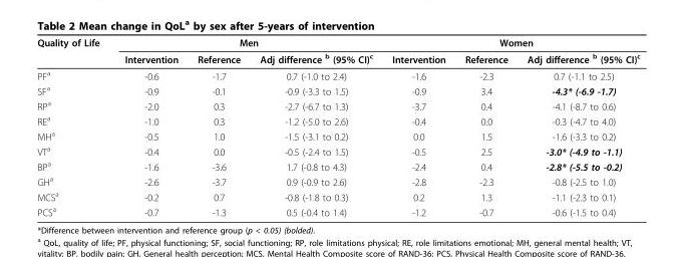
<table><thead><tr><td rowspan="2">Quality of Life</td><td colspan="3">Men</td><td colspan="3">Women</td></tr><tr><td>Intervention</td><td>Reference</td><td>Adj difference <sup>b</sup> (95% CI)<sup>c</sup></td><td>Intervention</td><td>Reference</td><td>Adj difference <sup>b</sup> (95% CI)<sup>c</sup></td></tr></thead><tbody><tr><td>PF<sup>a</sup></td><td>-0.6</td><td>-1.7</td><td>0.7 (-1.0 to 2.4)</td><td>-1.6</td><td>-2.3</td><td>0.7 (-1.1 to 2.5)</td></tr><tr><td>SF<sup>a</sup></td><td>-0.9</td><td>-0.1</td><td>-0.9 (-3.3 to 1.5)</td><td>-0.9</td><td>3.4</td><td>-4.3* (-6.9 -1.7)</td></tr><tr><td>RP<sup>a</sup></td><td>-2.0</td><td>0.3</td><td>-2.7 (-6.7 to 1.3)</td><td>-3.7</td><td>0.4</td><td>-4.1 (-8.7 to 0.6)</td></tr><tr><td>RE<sup>a</sup></td><td>-1.0</td><td>0.3</td><td>-1.2 (-5.0 to 2.6)</td><td>-0.4</td><td>0.0</td><td>-0.3 (-4.7 to 4.0)</td></tr><tr><td>MH<sup>a</sup></td><td>-0.5</td><td>1.0</td><td>-1.5 (-3.1 to 0.2)</td><td>0.0</td><td>1.5</td><td>-1.6 (-3.3 to 0.2)</td></tr><tr><td>VT<sup>a</sup></td><td>-0.4</td><td>0.0</td><td>-0.5 (-2.4 to 1.5)</td><td>-0.5</td><td>2.5</td><td>-3.0* (-4.9 to -1.1)</td></tr><tr><td>BP<sup>a</sup></td><td>-1.6</td><td>-3.6</td><td>1.7 (-0.8 to 4.3)</td><td>-2.4</td><td>0.4</td><td>-2.8* (-5.5 to -0.2)</td></tr><tr><td>GH<sup>a</sup></td><td>-2.6</td><td>-3.7</td><td>0.9 (-0.9 to 2.6)</td><td>-2.8</td><td>-2.3</td><td>-0.8 (-2.5 to 1.0)</td></tr><tr><td>MCS<sup>a</sup></td><td>-0.2</td><td>0.7</td><td>-0.8 (-1.8 to 0.3)</td><td>0.2</td><td>1.3</td><td>-1.1 (-2.3 to 0.1)</td></tr><tr><td>PCS<sup>a</sup></td><td>-0.7</td><td>-1.3</td><td>0.5 (-0.4 to 1.4)</td><td>-1.2</td><td>-0.7</td><td>-0.6 (-1.5 to 0.4)</td></tr></tbody></table>